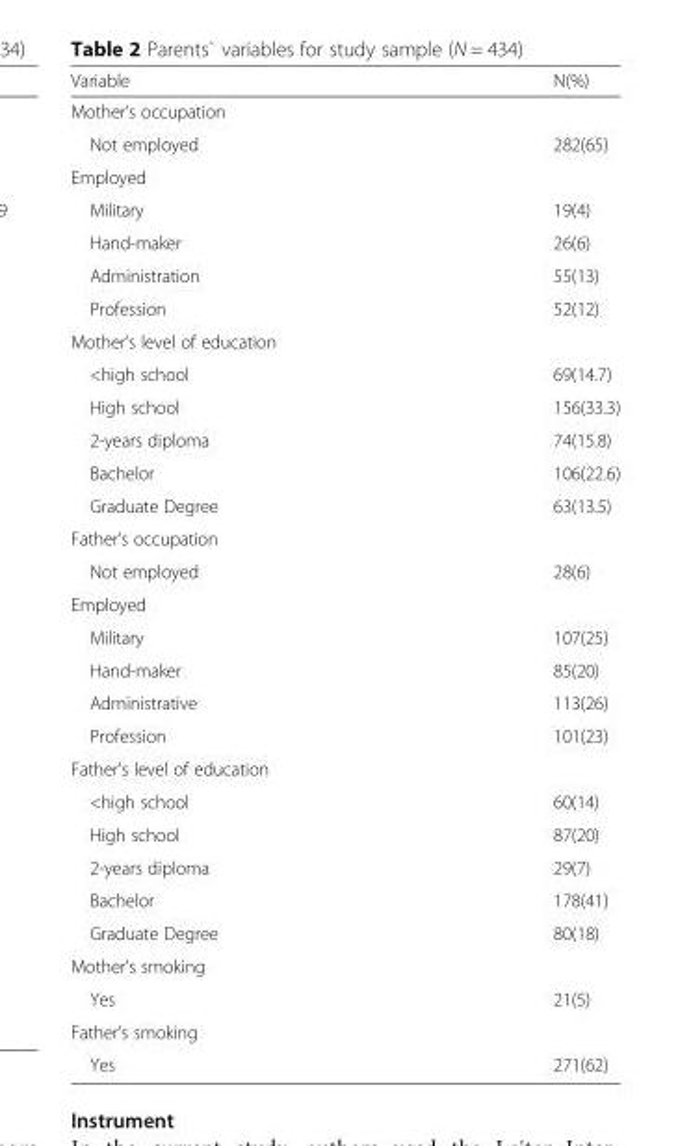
<table><thead><tr><td>Variable</td><td>N(%)</td></tr></thead><tbody><tr><td colspan="2">Mother’s occupation</td></tr><tr><td>Not employed</td><td>282(65)</td></tr><tr><td colspan="2">Employed</td></tr><tr><td>Military</td><td>19(4)</td></tr><tr><td>Hand-maker</td><td>26(6)</td></tr><tr><td>Administration</td><td>55(13)</td></tr><tr><td>Profession</td><td>52(12)</td></tr><tr><td colspan="2">Mother’s level of education</td></tr><tr><td>&lt;high school</td><td>69(14.7)</td></tr><tr><td>High school</td><td>156(33.3)</td></tr><tr><td>2-years diploma</td><td>74(15.8)</td></tr><tr><td>Bachelor</td><td>106(22.6)</td></tr><tr><td>Graduate Degree</td><td>63(13.5)</td></tr><tr><td colspan="2">Father’s occupation</td></tr><tr><td>Not employed</td><td>28(6)</td></tr><tr><td colspan="2">Employed</td></tr><tr><td>Military</td><td>107(25)</td></tr><tr><td>Hand-maker</td><td>85(20)</td></tr><tr><td>Administrative</td><td>113(26)</td></tr><tr><td>Profession</td><td>101(23)</td></tr><tr><td colspan="2">Father&#x27;s level of education</td></tr><tr><td>&lt;high school</td><td>60(14)</td></tr><tr><td>High school</td><td>87(20)</td></tr><tr><td>2-years diploma</td><td>29(7)</td></tr><tr><td>Bachelor</td><td>178(41)</td></tr><tr><td>Graduate Degree</td><td>80(18)</td></tr><tr><td colspan="2">Mother&#x27;s smoking</td></tr><tr><td>Yes</td><td>21(5)</td></tr><tr><td colspan="2">Father’s smoking</td></tr><tr><td>Yes</td><td>271(62)</td></tr></tbody></table>